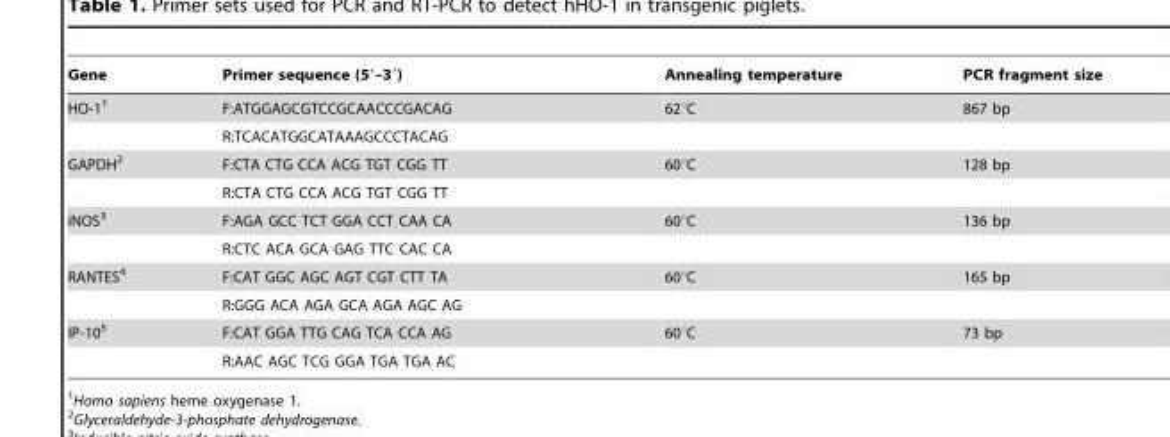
<table><thead><tr><td>Gene</td><td>Primer sequence (5′–3′)</td><td>Annealing temperature</td><td>PCR fragment size</td></tr></thead><tbody><tr><td rowspan="2">HO-1<sup>1</sup></td><td>F:ATGGAGCGTCCGCAACCCGACAG</td><td>62°C</td><td>867 bp</td></tr><tr><td>R:TCACATGGCATAAAGCCCTACAG</td><td></td><td></td></tr><tr><td rowspan="2">GAPDH<sup>2</sup></td><td>F:CTA CTG CCA ACG TGT CGG TT</td><td>60°C</td><td>128 bp</td></tr><tr><td>R:CTA CTG CCA ACG TGT CGG TT</td><td></td><td></td></tr><tr><td rowspan="2">iNOS<sup>3</sup></td><td>F:AGA GCC TCT GGA CCT CAA CA</td><td>60°C</td><td>136 bp</td></tr><tr><td>R:CTC ACA GCA GAG TTC CAC CA</td><td></td><td></td></tr><tr><td rowspan="2">RANTES<sup>4</sup></td><td>F:CAT GGC AGC AGT CGT CTT TA</td><td>60°C</td><td>165 bp</td></tr><tr><td>R:GGG ACA AGA GCA AGA AGC AG</td><td></td><td></td></tr><tr><td rowspan="2">IP-10<sup>5</sup></td><td>F:CAT GGA TTG CAG TCA CCA AG</td><td>60°C</td><td>73 bp</td></tr><tr><td>R:AAC AGC TCG GGA TGA TGA AC</td><td></td><td></td></tr></tbody></table>